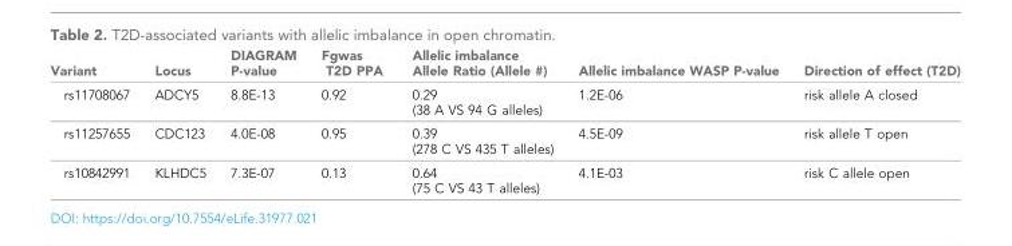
<table><thead><tr><td>Variant</td><td>Locus</td><td>DIAGRAM P-value</td><td>Fgwas T2D PPA</td><td>Allelic imbalance Allele Ratio (Allele #)</td><td>Allelic imbalance WASP P-value</td><td>Direction of effect (T2D)</td></tr></thead><tbody><tr><td>rs11708067</td><td>ADCY5</td><td>8.8E-13</td><td>0.92</td><td>0.29 (38 A VS 94 G alleles)</td><td>1.2E-06</td><td>risk allele A closed</td></tr><tr><td>rs11257655</td><td>CDC123</td><td>4.0E-08</td><td>0.95</td><td>0.39 (278 C VS 435 T alleles)</td><td>4.5E-09</td><td>risk allele T open</td></tr><tr><td>rs10842991</td><td>KLHDC5</td><td>7.3E-07</td><td>0.13</td><td>0.64 (75 C VS 43 T alleles)</td><td>4.1E-03</td><td>risk C allele open</td></tr></tbody></table>